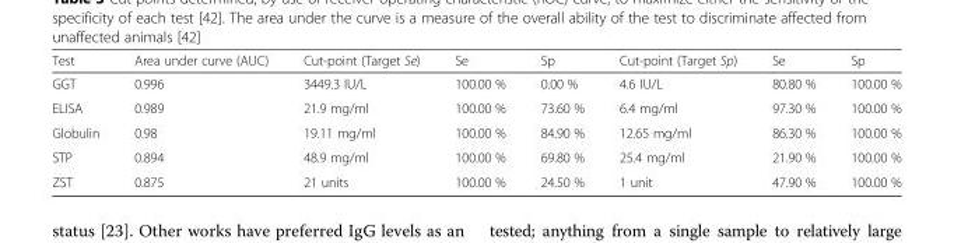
<table><thead><tr><td>Test</td><td>Area under curve (AUC)</td><td>Cut-point (Target Se)</td><td>Se</td><td>Sp</td><td>Cut-point (Target Sp)</td><td>Se</td><td>Sp</td></tr></thead><tbody><tr><td>GGT</td><td>0.996</td><td>3449.3 IU/L</td><td>100.00 %</td><td>0.00 %</td><td>4.6 IU/L</td><td>80.80 %</td><td>100.00 %</td></tr><tr><td>ELISA</td><td>0.989</td><td>21.9 mg/ml</td><td>100.00 %</td><td>73.60 %</td><td>6.4 mg/ml</td><td>97.30 %</td><td>100.00 %</td></tr><tr><td>Globulin</td><td>0.98</td><td>19.11 mg/ml</td><td>100.00 %</td><td>84.90 %</td><td>12.65 mg/ml</td><td>86.30 %</td><td>100.00 %</td></tr><tr><td>STP</td><td>0.894</td><td>48.9 mg/ml</td><td>100.00 %</td><td>69.80 %</td><td>25.4 mg/ml</td><td>21.90 %</td><td>100.00 %</td></tr><tr><td>ZST</td><td>0.875</td><td>21 units</td><td>100.00 %</td><td>24.50 %</td><td>1 unit</td><td>47.90 %</td><td>100.00 %</td></tr></tbody></table>